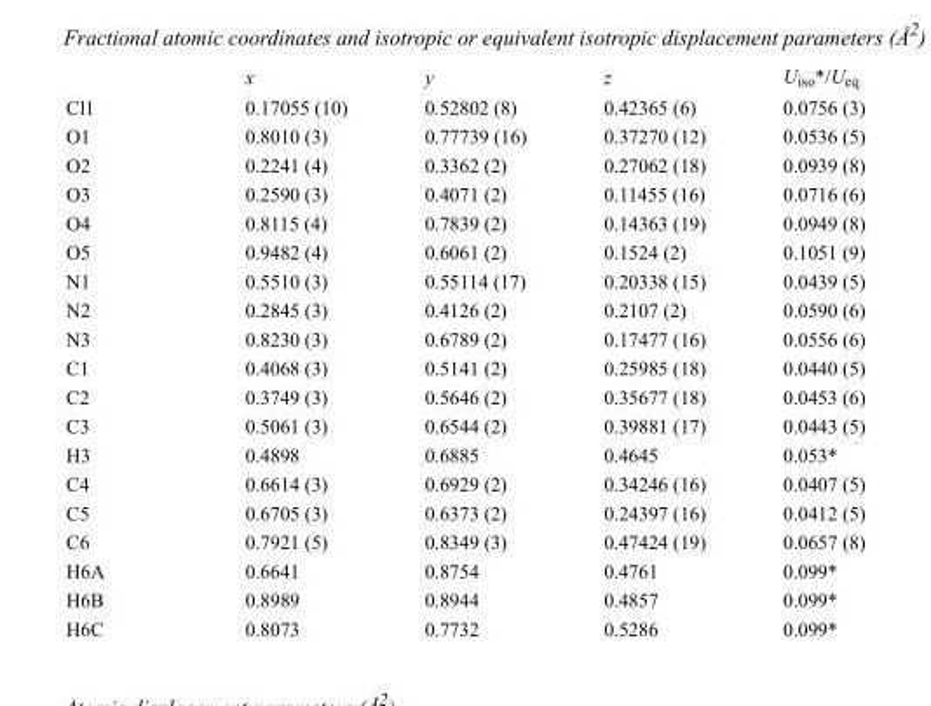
<table><thead><tr><td></td><td>x</td><td>y</td><td>z</td><td>U<sub>iso</sub>*/U<sub>eq</sub></td></tr></thead><tbody><tr><td>Cl1</td><td>0.17055 (10)</td><td>0.52802 (8)</td><td>0.42365 (6)</td><td>0.0756 (3)</td></tr><tr><td>O1</td><td>0.8010 (3)</td><td>0.77739 (16)</td><td>0.37270 (12)</td><td>0.0536 (5)</td></tr><tr><td>O2</td><td>0.2241 (4)</td><td>0.3362 (2)</td><td>0.27062 (18)</td><td>0.0939 (8)</td></tr><tr><td>O3</td><td>0.2590 (3)</td><td>0.4071 (2)</td><td>0.11455 (16)</td><td>0.0716 (6)</td></tr><tr><td>O4</td><td>0.8115 (4)</td><td>0.7839 (2)</td><td>0.14363 (19)</td><td>0.0949 (8)</td></tr><tr><td>O5</td><td>0.9482 (4)</td><td>0.6061 (2)</td><td>0.1524 (2)</td><td>0.1051 (9)</td></tr><tr><td>N1</td><td>0.5510 (3)</td><td>0.55114 (17)</td><td>0.20338 (15)</td><td>0.0439 (5)</td></tr><tr><td>N2</td><td>0.2845 (3)</td><td>0.4126 (2)</td><td>0.2107 (2)</td><td>0.0590 (6)</td></tr><tr><td>N3</td><td>0.8230 (3)</td><td>0.6789 (2)</td><td>0.17477 (16)</td><td>0.0556 (6)</td></tr><tr><td>C1</td><td>0.4068 (3)</td><td>0.5141 (2)</td><td>0.25985 (18)</td><td>0.0440 (5)</td></tr><tr><td>C2</td><td>0.3749 (3)</td><td>0.5646 (2)</td><td>0.35677 (18)</td><td>0.0453 (6)</td></tr><tr><td>C3</td><td>0.5061 (3)</td><td>0.6544 (2)</td><td>0.39881 (17)</td><td>0.0443 (5)</td></tr><tr><td>H3</td><td>0.4898</td><td>0.6885</td><td>0.4645</td><td>0.053*</td></tr><tr><td>C4</td><td>0.6614 (3)</td><td>0.6929 (2)</td><td>0.34246 (16)</td><td>0.0407 (5)</td></tr><tr><td>C5</td><td>0.6705 (3)</td><td>0.6373 (2)</td><td>0.24397 (16)</td><td>0.0412 (5)</td></tr><tr><td>C6</td><td>0.7921 (5)</td><td>0.8349 (3)</td><td>0.47424 (19)</td><td>0.0657 (8)</td></tr><tr><td>H6A</td><td>0.6641</td><td>0.8754</td><td>0.4761</td><td>0.099*</td></tr><tr><td>H6B</td><td>0.8989</td><td>0.8944</td><td>0.4857</td><td>0.099*</td></tr><tr><td>H6C</td><td>0.8073</td><td>0.7732</td><td>0.5286</td><td>0.099*</td></tr></tbody></table>